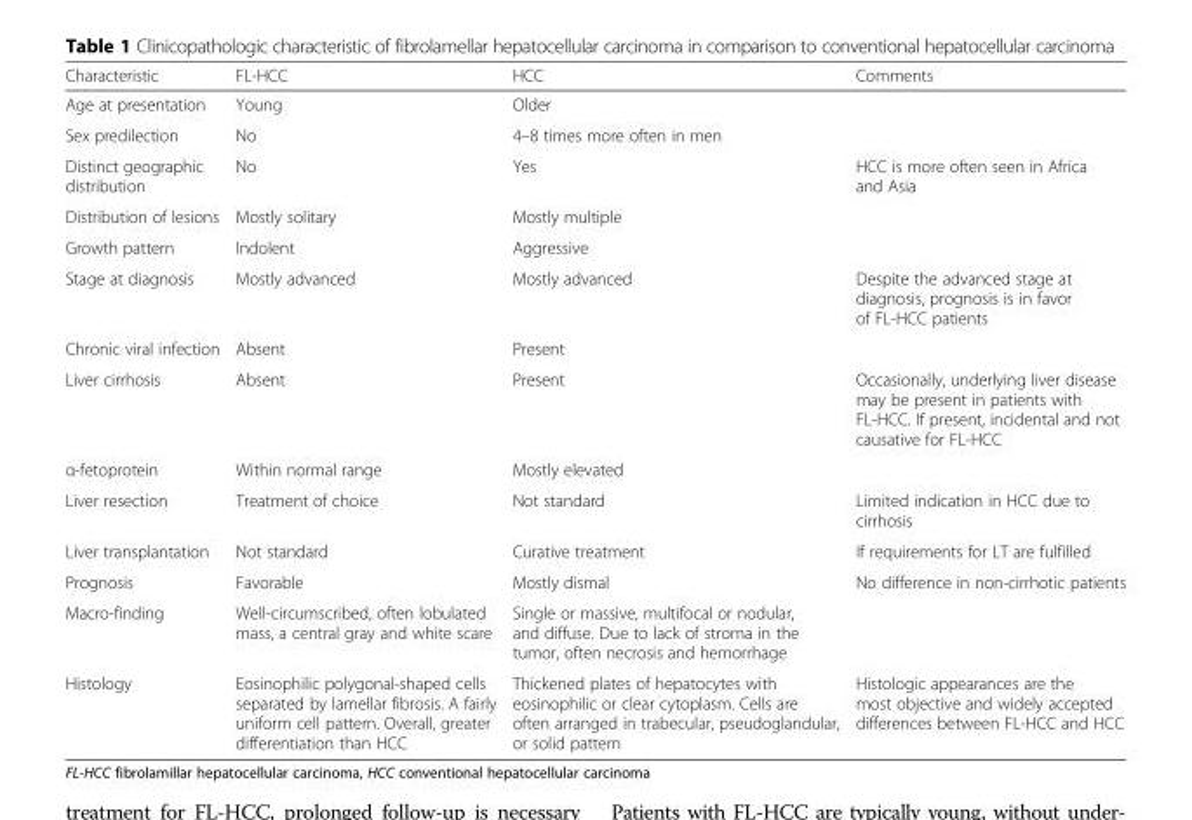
<table><thead><tr><td>Characteristic</td><td>FL-HCC</td><td>HCC</td><td>Comments</td></tr></thead><tbody><tr><td>Age at presentation</td><td>Young</td><td>Older</td><td></td></tr><tr><td>Sex predilection</td><td>No</td><td>4–8 times more often in men</td><td></td></tr><tr><td>Distinct geographic distribution</td><td>No</td><td>Yes</td><td>HCC is more often seen in Africa and Asia</td></tr><tr><td>Distribution of lesions</td><td>Mostly solitary</td><td>Mostly multiple</td><td></td></tr><tr><td>Growth pattern</td><td>Indolent</td><td>Aggressive</td><td></td></tr><tr><td>Stage at diagnosis</td><td>Mostly advanced</td><td>Mostly advanced</td><td>Despite the advanced stage at diagnosis, prognosis is in favor of FL-HCC patients</td></tr><tr><td>Chronic viral infection</td><td>Absent</td><td>Present</td><td></td></tr><tr><td>Liver cirrhosis</td><td>Absent</td><td>Present</td><td>Occasionally, underlying liver disease may be present in patients with FL-HCC. If present, incidental and not causative for FL-HCC</td></tr><tr><td>α-fetoprotein</td><td>Within normal range</td><td>Mostly elevated</td><td></td></tr><tr><td>Liver resection</td><td>Treatment of choice</td><td>Not standard</td><td>Limited indication in HCC due to cirrhosis</td></tr><tr><td>Liver transplantation</td><td>Not standard</td><td>Curative treatment</td><td>If requirements for LT are fulfilled</td></tr><tr><td>Prognosis</td><td>Favorable</td><td>Mostly dismal</td><td>No difference in non-cirrhotic patients</td></tr><tr><td>Macro-finding</td><td>Well-circumscribed, often lobulated mass, a central gray and white scare</td><td>Single or massive, multifocal or nodular, and diffuse. Due to lack of stroma in the tumor, often necrosis and hemorrhage</td><td></td></tr><tr><td>Histology</td><td>Eosinophilic polygonal-shaped cells separated by lamellar fibrosis. A fairly uniform cell pattern. Overall, greater differentiation than HCC</td><td>Thickened plates of hepatocytes with eosinophilic or clear cytoplasm. Cells are often arranged in trabecular, pseudoglandular, or solid pattern</td><td>Histologic appearances are the most objective and widely accepted differences between FL-HCC and HCC</td></tr></tbody></table>